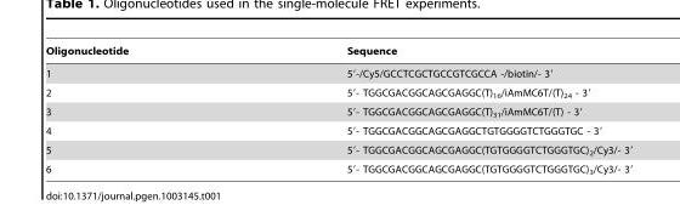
<table><thead><tr><td>Oligonucleotide</td><td>Sequence</td></tr></thead><tbody><tr><td>1</td><td>5′-/Cy5/GCCTCGCTGCCGTCGCCA -/biotin/- 3′</td></tr><tr><td>2</td><td>5′- TGGCGACGGCAGCGAGGC(T)<sub>16</sub>/iAmMC6T/(T)<sub>24</sub> - 3′</td></tr><tr><td>3</td><td>5′- TGGCGACGGCAGCGAGGC(T)<sub>31</sub>/iAmMC6T/(T) - 3′</td></tr><tr><td>4</td><td>5′- TGGCGACGGCAGCGAGGCTGTGGGGTCTGGGTGC - 3′</td></tr><tr><td>5</td><td>5′- TGGCGACGGCAGCGAGGC(TGTGGGGTCTGGGTGC)<sub>2</sub>/Cy3/- 3′</td></tr><tr><td>6</td><td>5′- TGGCGACGGCAGCGAGGC(TGTGGGGTCTGGGTGC)<sub>3</sub>/Cy3/- 3′</td></tr></tbody></table>